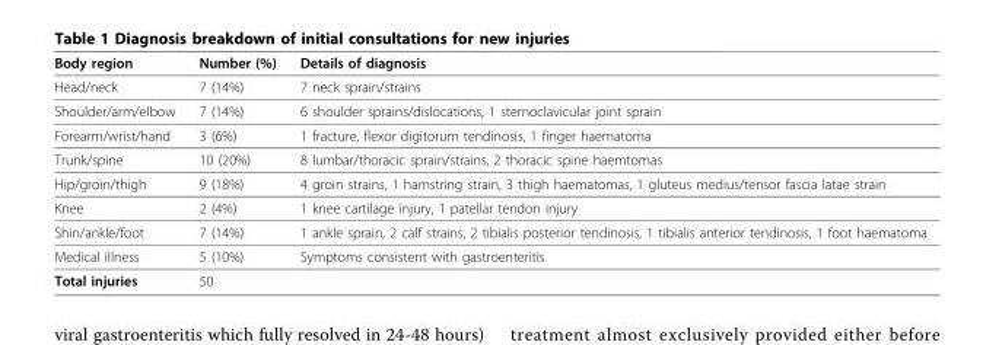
<table><thead><tr><td>Body region</td><td>Number (%)</td><td>Details of diagnosis</td></tr></thead><tbody><tr><td>Head/neck</td><td>7 (14%)</td><td>7 neck sprain/strains</td></tr><tr><td>Shoulder/arm/elbow</td><td>7 (14%)</td><td>6 shoulder sprains/dislocations, 1 sternoclavicular joint sprain</td></tr><tr><td>Forearm/wrist/hand</td><td>3 (6%)</td><td>1 fracture, flexor digitorum tendinosis, 1 finger haematoma</td></tr><tr><td>Trunk/spine</td><td>10 (20%)</td><td>8 lumbar/thoracic sprain/strains, 2 thoracic spine haemtomas</td></tr><tr><td>Hip/groin/thigh</td><td>9 (18%)</td><td>4 groin strains, 1 hamstring strain, 3 thigh haematomas, 1 gluteus medius/tensor fascia latae strain</td></tr><tr><td>Knee</td><td>2 (4%)</td><td>1 knee cartilage injury, 1 patellar tendon injury</td></tr><tr><td>Shin/ankle/foot</td><td>7 (14%)</td><td>1 ankle sprain, 2 calf strains, 2 tibialis posterior tendinosis, 1 tibialis anterior tendinosis, 1 foot haematoma</td></tr><tr><td>Medical illness</td><td>5 (10%)</td><td>Symptoms consistent with gastroenteritis</td></tr><tr><td>Total injuries</td><td>50</td><td></td></tr></tbody></table>